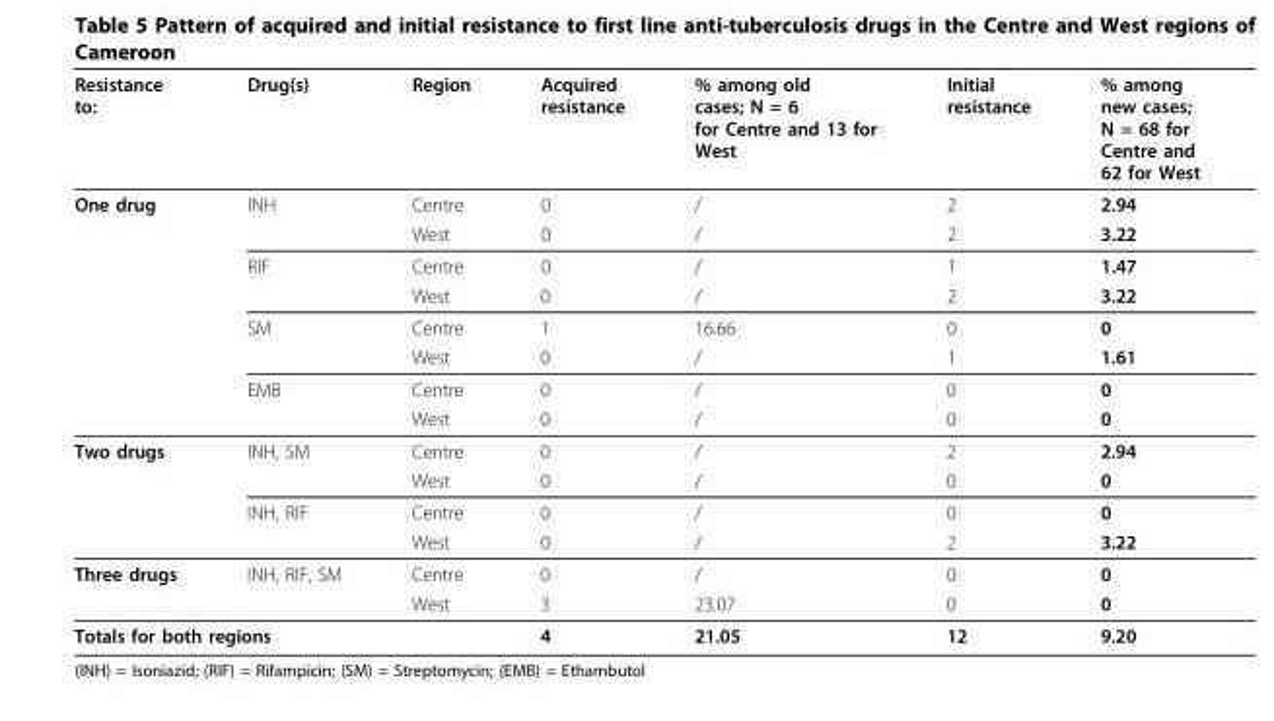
<table><thead><tr><td>Resistance to:</td><td>Drug(s)</td><td>Region</td><td>Acquired resistance</td><td>% among old cases; N = 6 for Centre and 13 for West</td><td>Initial resistance</td><td>% among new cases; N = 68 for Centre and 62 for West</td></tr></thead><tbody><tr><td rowspan="8">One drug</td><td>INH</td><td>Centre</td><td>0</td><td>/</td><td>2</td><td>2.94</td></tr><tr><td></td><td>West</td><td>0</td><td>/</td><td>2</td><td>3.22</td></tr><tr><td>RIF</td><td>Centre</td><td>0</td><td>/</td><td>1</td><td>1.47</td></tr><tr><td></td><td>West</td><td>0</td><td>/</td><td>2</td><td>3.22</td></tr><tr><td>SM</td><td>Centre</td><td>1</td><td>16.66</td><td>0</td><td>0</td></tr><tr><td></td><td>West</td><td>0</td><td>/</td><td>1</td><td>1.61</td></tr><tr><td>EMB</td><td>Centre</td><td>0</td><td>/</td><td>0</td><td>0</td></tr><tr><td></td><td>West</td><td>0</td><td>/</td><td>0</td><td>0</td></tr><tr><td rowspan="4">Two drugs</td><td>INH, SM</td><td>Centre</td><td>0</td><td>/</td><td>2</td><td>2.94</td></tr><tr><td></td><td>West</td><td>0</td><td>/</td><td>0</td><td>0</td></tr><tr><td>INH, RIF</td><td>Centre</td><td>0</td><td>/</td><td>0</td><td>0</td></tr><tr><td></td><td>West</td><td>0</td><td>/</td><td>2</td><td>3.22</td></tr><tr><td rowspan="2">Three drugs</td><td>INH, RIF, SM</td><td>Centre</td><td>0</td><td>/</td><td>0</td><td>0</td></tr><tr><td></td><td>West</td><td>3</td><td>23.07</td><td>0</td><td>0</td></tr><tr><td colspan="2">Totals for both regions</td><td></td><td>4</td><td>21.05</td><td>12</td><td>9.20</td></tr></tbody></table>